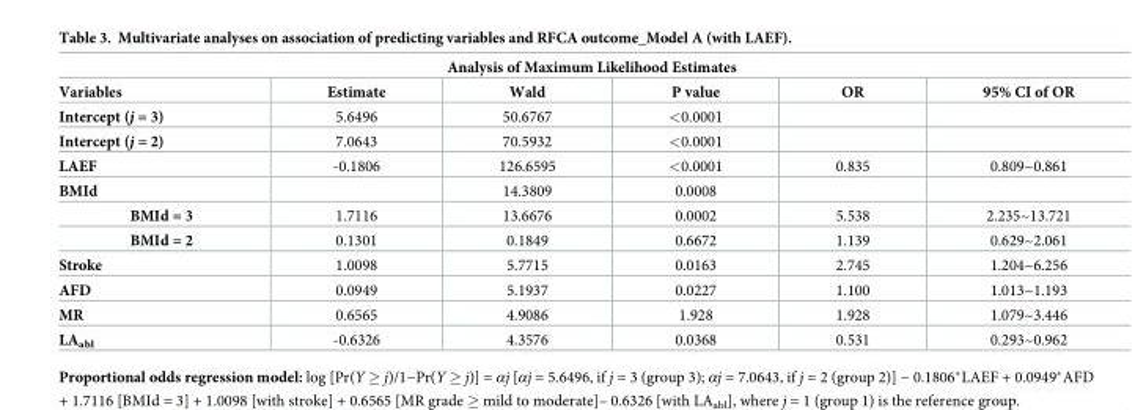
<table><thead><tr><td colspan="6">Analysis of Maximum Likelihood Estimates</td></tr><tr><td>Variables</td><td>Estimate</td><td>Wald</td><td>P value</td><td>OR</td><td>95% CI of OR</td></tr></thead><tbody><tr><td>Intercept (j = 3)</td><td>5.6496</td><td>50.6767</td><td>&lt;0.0001</td><td></td><td></td></tr><tr><td>Intercept (j = 2)</td><td>7.0643</td><td>70.5932</td><td>&lt;0.0001</td><td></td><td></td></tr><tr><td>LAEF</td><td>-0.1806</td><td>126.6595</td><td>&lt;0.0001</td><td>0.835</td><td>0.809~0.861</td></tr><tr><td>BMId</td><td></td><td>14.3809</td><td>0.0008</td><td></td><td></td></tr><tr><td>BMId = 3</td><td>1.7116</td><td>13.6676</td><td>0.0002</td><td>5.538</td><td>2.235~13.721</td></tr><tr><td>BMId = 2</td><td>0.1301</td><td>0.1849</td><td>0.6672</td><td>1.139</td><td>0.629~2.061</td></tr><tr><td>Stroke</td><td>1.0098</td><td>5.7715</td><td>0.0163</td><td>2.745</td><td>1.204~6.256</td></tr><tr><td>AFD</td><td>0.0949</td><td>5.1937</td><td>0.0227</td><td>1.100</td><td>1.013~1.193</td></tr><tr><td>MR</td><td>0.6565</td><td>4.9086</td><td>1.928</td><td>1.928</td><td>1.079~3.446</td></tr><tr><td>LA<sub>abl</sub></td><td>-0.6326</td><td>4.3576</td><td>0.0368</td><td>0.531</td><td>0.293~0.962</td></tr></tbody></table>